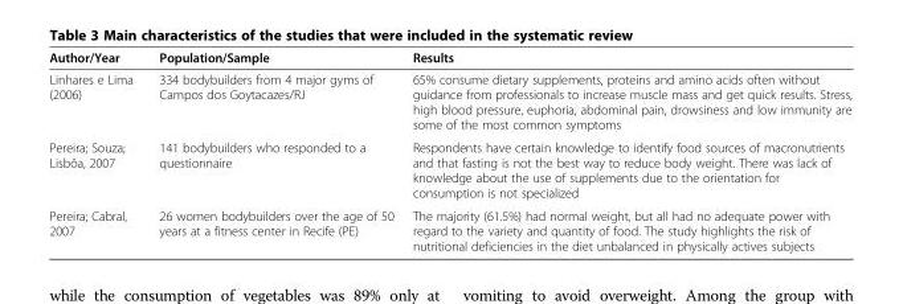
<table><thead><tr><td>Author/Year</td><td>Population/Sample</td><td>Results</td></tr></thead><tbody><tr><td>Linhares e Lima (2006)</td><td>334 bodybuilders from 4 major gyms of Campos dos Goytacazes/RJ</td><td>65% consume dietary supplements, proteins and amino acids often without guidance from professionals to increase muscle mass and get quick results. Stress, high blood pressure, euphoria, abdominal pain, drowsiness and low immunity are some of the most common symptoms</td></tr><tr><td>Pereira; Souza; Lisbôa, 2007</td><td>141 bodybuilders who responded to a questionnaire</td><td>Respondents have certain knowledge to identify food sources of macronutrients and that fasting is not the best way to reduce body weight. There was lack of knowledge about the use of supplements due to the orientation for consumption is not specialized</td></tr><tr><td>Pereira; Cabral, 2007</td><td>26 women bodybuilders over the age of 50 years at a fitness center in Recife (PE)</td><td>The majority (61.5%) had normal weight, but all had no adequate power with regard to the variety and quantity of food. The study highlights the risk of nutritional deficiencies in the diet unbalanced in physically actives subjects</td></tr></tbody></table>